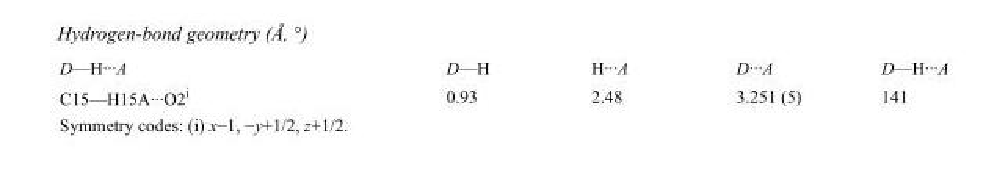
<table><tbody><tr><td>D—H···A</td><td>D—H</td><td>H···A</td><td>D···A</td><td>D—H···A</td></tr><tr><td>C15—H15A···O2<sup>i</sup></td><td>0.93</td><td>2.48</td><td>3.251 (5)</td><td>141</td></tr></tbody></table>